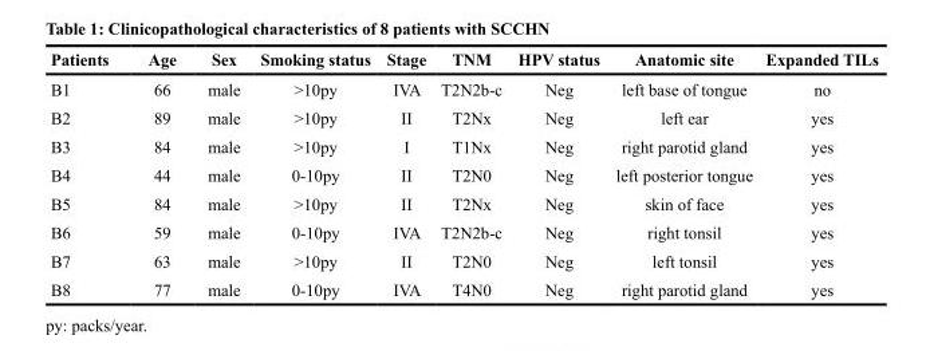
<table><thead><tr><td>Patients</td><td>Age</td><td>Sex</td><td>Smoking status</td><td>Stage</td><td>TNM</td><td>HPV status</td><td>Anatomic site</td><td>Expanded TILs</td></tr></thead><tbody><tr><td>B1</td><td>66</td><td>male</td><td>&gt;10py</td><td>IVA</td><td>T2N2b-c</td><td>Neg</td><td>left base of tongue</td><td>no</td></tr><tr><td>B2</td><td>89</td><td>male</td><td>&gt;10py</td><td>II</td><td>T2Nx</td><td>Neg</td><td>left ear</td><td>yes</td></tr><tr><td>B3</td><td>84</td><td>male</td><td>&gt;10py</td><td>I</td><td>T1Nx</td><td>Neg</td><td>right parotid gland</td><td>yes</td></tr><tr><td>B4</td><td>44</td><td>male</td><td>0-10py</td><td>II</td><td>T2N0</td><td>Neg</td><td>left posterior tongue</td><td>yes</td></tr><tr><td>B5</td><td>84</td><td>male</td><td>&gt;10py</td><td>II</td><td>T2Nx</td><td>Neg</td><td>skin of face</td><td>yes</td></tr><tr><td>B6</td><td>59</td><td>male</td><td>0-10py</td><td>IVA</td><td>T2N2b-c</td><td>Neg</td><td>right tonsil</td><td>yes</td></tr><tr><td>B7</td><td>63</td><td>male</td><td>&gt;10py</td><td>II</td><td>T2N0</td><td>Neg</td><td>left tonsil</td><td>yes</td></tr><tr><td>B8</td><td>77</td><td>male</td><td>0-10py</td><td>IVA</td><td>T4N0</td><td>Neg</td><td>right parotid gland</td><td>yes</td></tr></tbody></table>